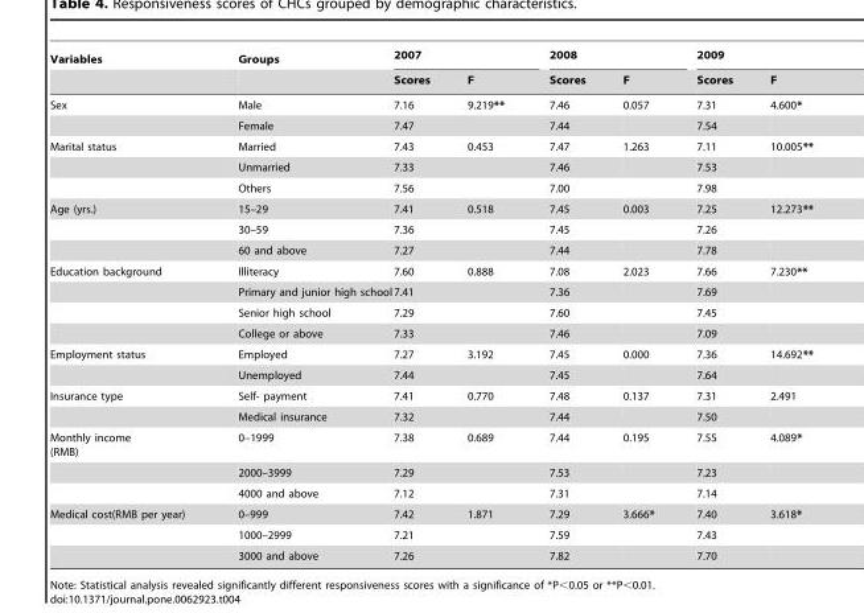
<table><thead><tr><td rowspan="2">Variables</td><td rowspan="2">Groups</td><td colspan="2">2007</td><td colspan="2">2008</td><td colspan="2">2009</td></tr><tr><td>Scores</td><td>F</td><td>Scores</td><td>F</td><td>Scores</td><td>F</td></tr></thead><tbody><tr><td rowspan="2">Sex</td><td>Male</td><td>7.16</td><td>9.219**</td><td>7.46</td><td>0.057</td><td>7.31</td><td>4.600*</td></tr><tr><td>Female</td><td>7.47</td><td></td><td>7.44</td><td></td><td>7.54</td><td></td></tr><tr><td rowspan="3">Marital status</td><td>Married</td><td>7.43</td><td>0.453</td><td>7.47</td><td>1.263</td><td>7.11</td><td>10.005**</td></tr><tr><td>Unmarried</td><td>7.33</td><td></td><td>7.46</td><td></td><td>7.53</td><td></td></tr><tr><td>Others</td><td>7.56</td><td></td><td>7.00</td><td></td><td>7.98</td><td></td></tr><tr><td rowspan="3">Age (yrs.)</td><td>15–29</td><td>7.41</td><td>0.518</td><td>7.45</td><td>0.003</td><td>7.25</td><td>12.273**</td></tr><tr><td>30–59</td><td>7.36</td><td></td><td>7.45</td><td></td><td>7.26</td><td></td></tr><tr><td>60 and above</td><td>7.27</td><td></td><td>7.44</td><td></td><td>7.78</td><td></td></tr><tr><td rowspan="4">Education background</td><td>Illiteracy</td><td>7.60</td><td>0.888</td><td>7.08</td><td>2.023</td><td>7.66</td><td>7.230**</td></tr><tr><td>Primary and junior high school</td><td>7.41</td><td></td><td>7.36</td><td></td><td>7.69</td><td></td></tr><tr><td>Senior high school</td><td>7.29</td><td></td><td>7.60</td><td></td><td>7.45</td><td></td></tr><tr><td>College or above</td><td>7.33</td><td></td><td>7.46</td><td></td><td>7.09</td><td></td></tr><tr><td rowspan="2">Employment status</td><td>Employed</td><td>7.27</td><td>3.192</td><td>7.45</td><td>0.000</td><td>7.36</td><td>14.692**</td></tr><tr><td>Unemployed</td><td>7.44</td><td></td><td>7.45</td><td></td><td>7.64</td><td></td></tr><tr><td rowspan="2">Insurance type</td><td>Self- payment</td><td>7.41</td><td>0.770</td><td>7.48</td><td>0.137</td><td>7.31</td><td>2.491</td></tr><tr><td>Medical insurance</td><td>7.32</td><td></td><td>7.44</td><td></td><td>7.50</td><td></td></tr><tr><td rowspan="3">Monthly income (RMB)</td><td>0–1999</td><td>7.38</td><td>0.689</td><td>7.44</td><td>0.195</td><td>7.55</td><td>4.089*</td></tr><tr><td>2000–3999</td><td>7.29</td><td></td><td>7.53</td><td></td><td>7.23</td><td></td></tr><tr><td>4000 and above</td><td>7.12</td><td></td><td>7.31</td><td></td><td>7.14</td><td></td></tr><tr><td rowspan="3">Medical cost(RMB per year)</td><td>0–999</td><td>7.42</td><td>1.871</td><td>7.29</td><td>3.666*</td><td>7.40</td><td>3.618*</td></tr><tr><td>1000–2999</td><td>7.21</td><td></td><td>7.59</td><td></td><td>7.43</td><td></td></tr><tr><td>3000 and above</td><td>7.26</td><td></td><td>7.82</td><td></td><td>7.70</td><td></td></tr></tbody></table>